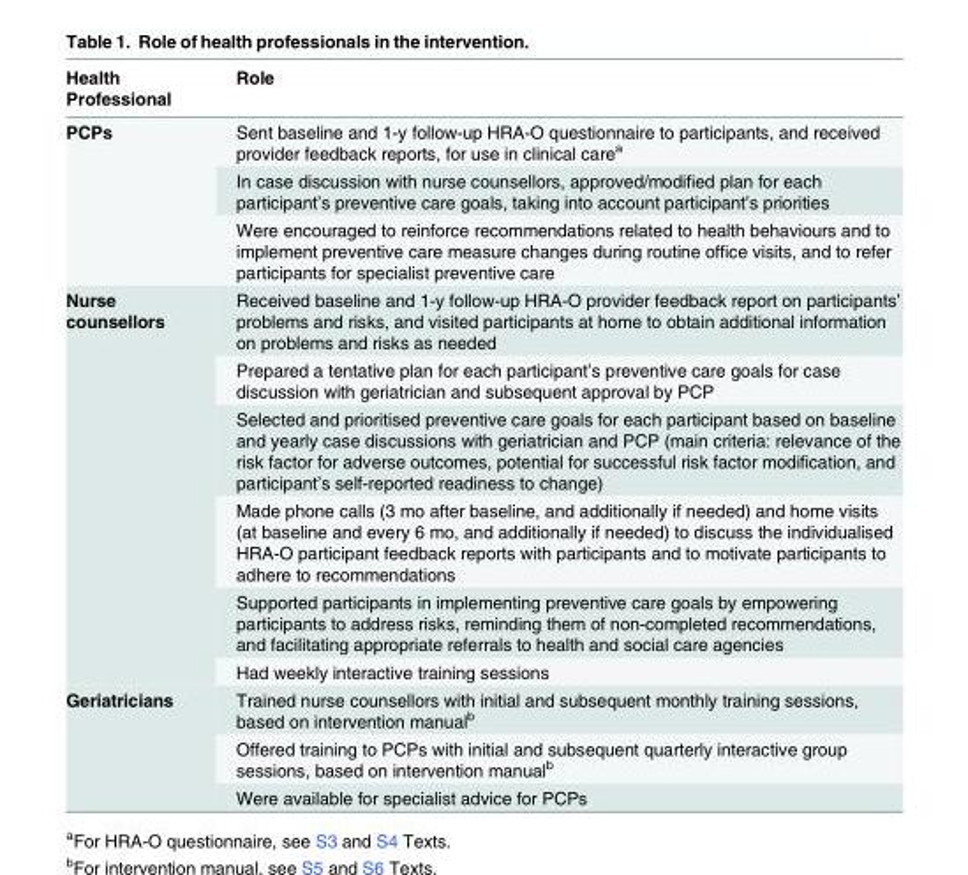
<table><thead><tr><td>Health Professional</td><td>Role</td></tr></thead><tbody><tr><td rowspan="3">PCPs</td><td>Sent baseline and 1-y follow-up HRA-O questionnaire to participants, and received provider feedback reports, for use in clinical care<sup>a</sup></td></tr><tr><td>In case discussion with nurse counsellors, approved/modified plan for each participant’s preventive care goals, taking into account participant’s priorities</td></tr><tr><td>Were encouraged to reinforce recommendations related to health behaviours and to implement preventive care measure changes during routine office visits, and to refer participants for specialist preventive care</td></tr><tr><td rowspan="6">Nurse counsellors</td><td>Received baseline and 1-y follow-up HRA-O provider feedback report on participants’ problems and risks, and visited participants at home to obtain additional information on problems and risks as needed</td></tr><tr><td>Prepared a tentative plan for each participant’s preventive care goals for case discussion with geriatrician and subsequent approval by PCP</td></tr><tr><td>Selected and prioritised preventive care goals for each participant based on baseline and yearly case discussions with geriatrician and PCP (main criteria: relevance of the risk factor for adverse outcomes, potential for successful risk factor modification, and participant’s self-reported readiness to change)</td></tr><tr><td>Made phone calls (3 mo after baseline, and additionally if needed) and home visits (at baseline and every 6 mo, and additionally if needed) to discuss the individualised HRA-O participant feedback reports with participants and to motivate participants to adhere to recommendations</td></tr><tr><td>Supported participants in implementing preventive care goals by empowering participants to address risks, reminding them of non-completed recommendations, and facilitating appropriate referrals to health and social care agencies</td></tr><tr><td>Had weekly interactive training sessions</td></tr><tr><td rowspan="3">Geriatricians</td><td>Trained nurse counsellors with initial and subsequent monthly training sessions, based on intervention manual<sup>b</sup></td></tr><tr><td>Offered training to PCPs with initial and subsequent quarterly interactive group sessions, based on intervention manual<sup>b</sup></td></tr><tr><td>Were available for specialist advice for PCPs</td></tr></tbody></table>